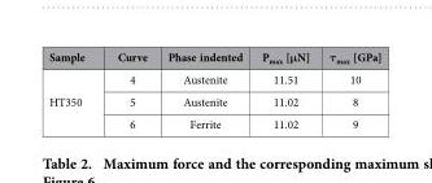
<table><thead><tr><td>Sample</td><td>Curve</td><td>Phase indented</td><td>P<sub>max</sub> [μN]</td><td>τ<sub>max</sub> [GPa]</td></tr></thead><tbody><tr><td rowspan="3">HT350</td><td>4</td><td>Austenite</td><td>11.51</td><td>10</td></tr><tr><td>5</td><td>Austenite</td><td>11.02</td><td>8</td></tr><tr><td>6</td><td>Ferrite</td><td>11.02</td><td>9</td></tr></tbody></table>